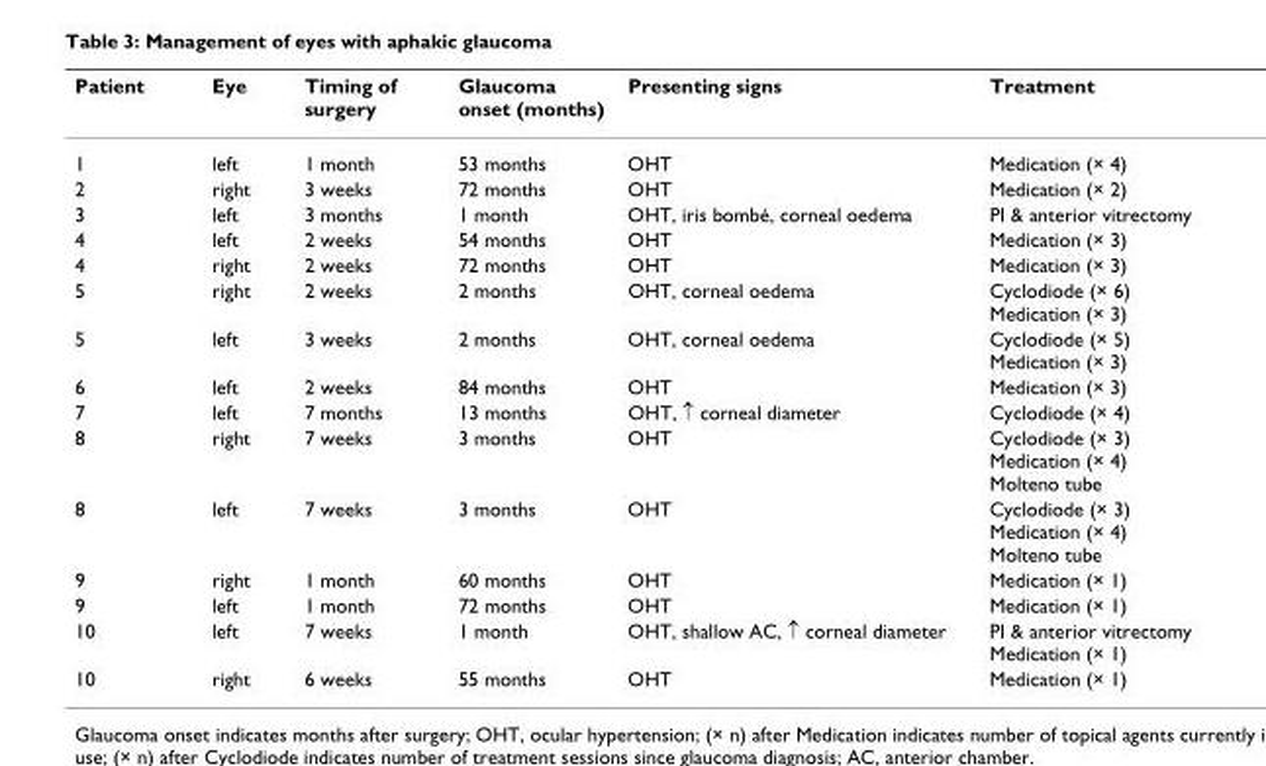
<table><thead><tr><td>Patient</td><td>Eye</td><td>Timing of surgery</td><td>Glaucoma onset (months)</td><td>Presenting signs</td><td>Treatment</td></tr></thead><tbody><tr><td>1</td><td>left</td><td>1 month</td><td>53 months</td><td>OHT</td><td>Medication (× 4)</td></tr><tr><td>2</td><td>right</td><td>3 weeks</td><td>72 months</td><td>OHT</td><td>Medication (× 2)</td></tr><tr><td>3</td><td>left</td><td>3 months</td><td>1 month</td><td>OHT, iris bombé, corneal oedema</td><td>PI &amp; anterior vitrectomy</td></tr><tr><td>4</td><td>left</td><td>2 weeks</td><td>54 months</td><td>OHT</td><td>Medication (× 3)</td></tr><tr><td>4</td><td>right</td><td>2 weeks</td><td>72 months</td><td>OHT</td><td>Medication (× 3)</td></tr><tr><td>5</td><td>right</td><td>2 weeks</td><td>2 months</td><td>OHT, corneal oedema</td><td>Cyclodiode (× 6) Medication (× 3)</td></tr><tr><td>5</td><td>left</td><td>3 weeks</td><td>2 months</td><td>OHT, corneal oedema</td><td>Cyclodiode (× 5) Medication (× 3)</td></tr><tr><td>6</td><td>left</td><td>2 weeks</td><td>84 months</td><td>OHT</td><td>Medication (× 3)</td></tr><tr><td>7</td><td>left</td><td>7 months</td><td>13 months</td><td>OHT, ↑ corneal diameter</td><td>Cyclodiode (× 4)</td></tr><tr><td>8</td><td>right</td><td>7 weeks</td><td>3 months</td><td>OHT</td><td>Cyclodiode (× 3) Medication (× 4) Molteno tube</td></tr><tr><td>8</td><td>left</td><td>7 weeks</td><td>3 months</td><td>OHT</td><td>Cyclodiode (× 3) Medication (× 4) Molteno tube</td></tr><tr><td>9</td><td>right</td><td>1 month</td><td>60 months</td><td>OHT</td><td>Medication (× 1)</td></tr><tr><td>9</td><td>left</td><td>1 month</td><td>72 months</td><td>OHT</td><td>Medication (× 1)</td></tr><tr><td>10</td><td>left</td><td>7 weeks</td><td>1 month</td><td>OHT, shallow AC, ↑ corneal diameter</td><td>PI &amp; anterior vitrectomy Medication (× 1)</td></tr><tr><td>10</td><td>right</td><td>6 weeks</td><td>55 months</td><td>OHT</td><td>Medication (× 1)</td></tr></tbody></table>